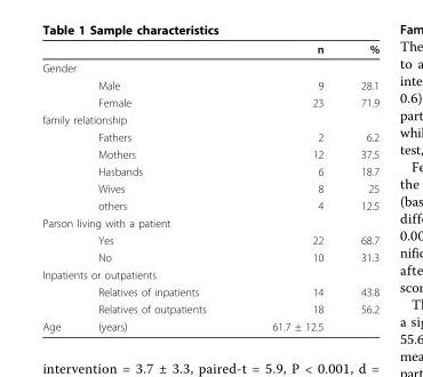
<table><thead><tr><td></td><td></td><td>n</td><td>%</td></tr></thead><tbody><tr><td colspan="4">Gender</td></tr><tr><td></td><td>Male</td><td>9</td><td>28.1</td></tr><tr><td></td><td>Female</td><td>23</td><td>71.9</td></tr><tr><td colspan="4">family relationship</td></tr><tr><td></td><td>Fathers</td><td>2</td><td>6.2</td></tr><tr><td></td><td>Mothers</td><td>12</td><td>37.5</td></tr><tr><td></td><td>Hasbands</td><td>6</td><td>18.7</td></tr><tr><td></td><td>Wives</td><td>8</td><td>25</td></tr><tr><td></td><td>others</td><td>4</td><td>12.5</td></tr><tr><td colspan="4">Parson living with a patient</td></tr><tr><td></td><td>Yes</td><td>22</td><td>68.7</td></tr><tr><td></td><td>No</td><td>10</td><td>31.3</td></tr><tr><td colspan="4">Inpatients or outpatients</td></tr><tr><td></td><td>Relatives of inpatients</td><td>14</td><td>43.8</td></tr><tr><td></td><td>Relatives of outpatients</td><td>18</td><td>56.2</td></tr><tr><td>Age</td><td>(years)</td><td>61.7 ± 12.5</td><td></td></tr></tbody></table>